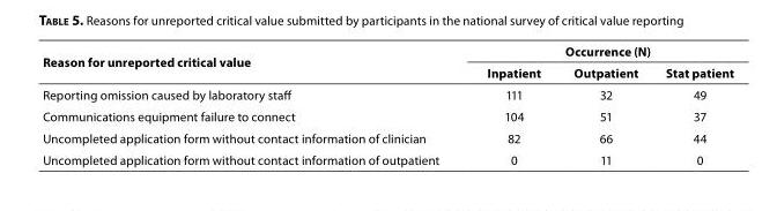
<table><thead><tr><td rowspan="2">Reason for unreported critical value</td><td colspan="3">Occurrence (N)</td></tr><tr><td>Inpatient</td><td>Outpatient</td><td>Stat patient</td></tr></thead><tbody><tr><td>Reporting omission caused by laboratory staff</td><td>111</td><td>32</td><td>49</td></tr><tr><td>Communications equipment failure to connect</td><td>104</td><td>51</td><td>37</td></tr><tr><td>Uncompleted application form without contact information of clinician</td><td>82</td><td>66</td><td>44</td></tr><tr><td>Uncompleted application form without contact information of outpatient</td><td>0</td><td>11</td><td>0</td></tr></tbody></table>